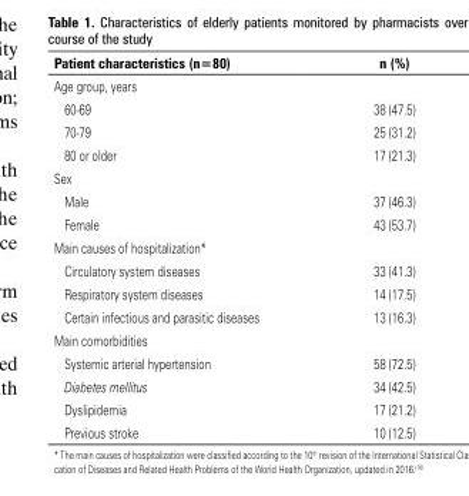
<table><thead><tr><td>Patient characteristics (n=80)</td><td>n (%)</td></tr></thead><tbody><tr><td colspan="2">Age group, years</td></tr><tr><td>60-69</td><td>38 (47.5)</td></tr><tr><td>70-79</td><td>25 (31.2)</td></tr><tr><td>80 or older</td><td>17 (21.3)</td></tr><tr><td colspan="2">Sex</td></tr><tr><td>Male</td><td>37 (46.3)</td></tr><tr><td>Female</td><td>43 (53.7)</td></tr><tr><td colspan="2">Main causes of hospitalization*</td></tr><tr><td>Circulatory system diseases</td><td>33 (41.3)</td></tr><tr><td>Respiratory system diseases</td><td>14 (17.5)</td></tr><tr><td>Certain infectious and parasitic diseases</td><td>13 (16.3)</td></tr><tr><td colspan="2">Main comorbidities</td></tr><tr><td>Systemic arterial hypertension</td><td>58 (72.5)</td></tr><tr><td>Diabetes mellitus</td><td>34 (42.5)</td></tr><tr><td>Dyslipidemia</td><td>17 (21.2)</td></tr><tr><td>Previous stroke</td><td>10 (12.5)</td></tr></tbody></table>